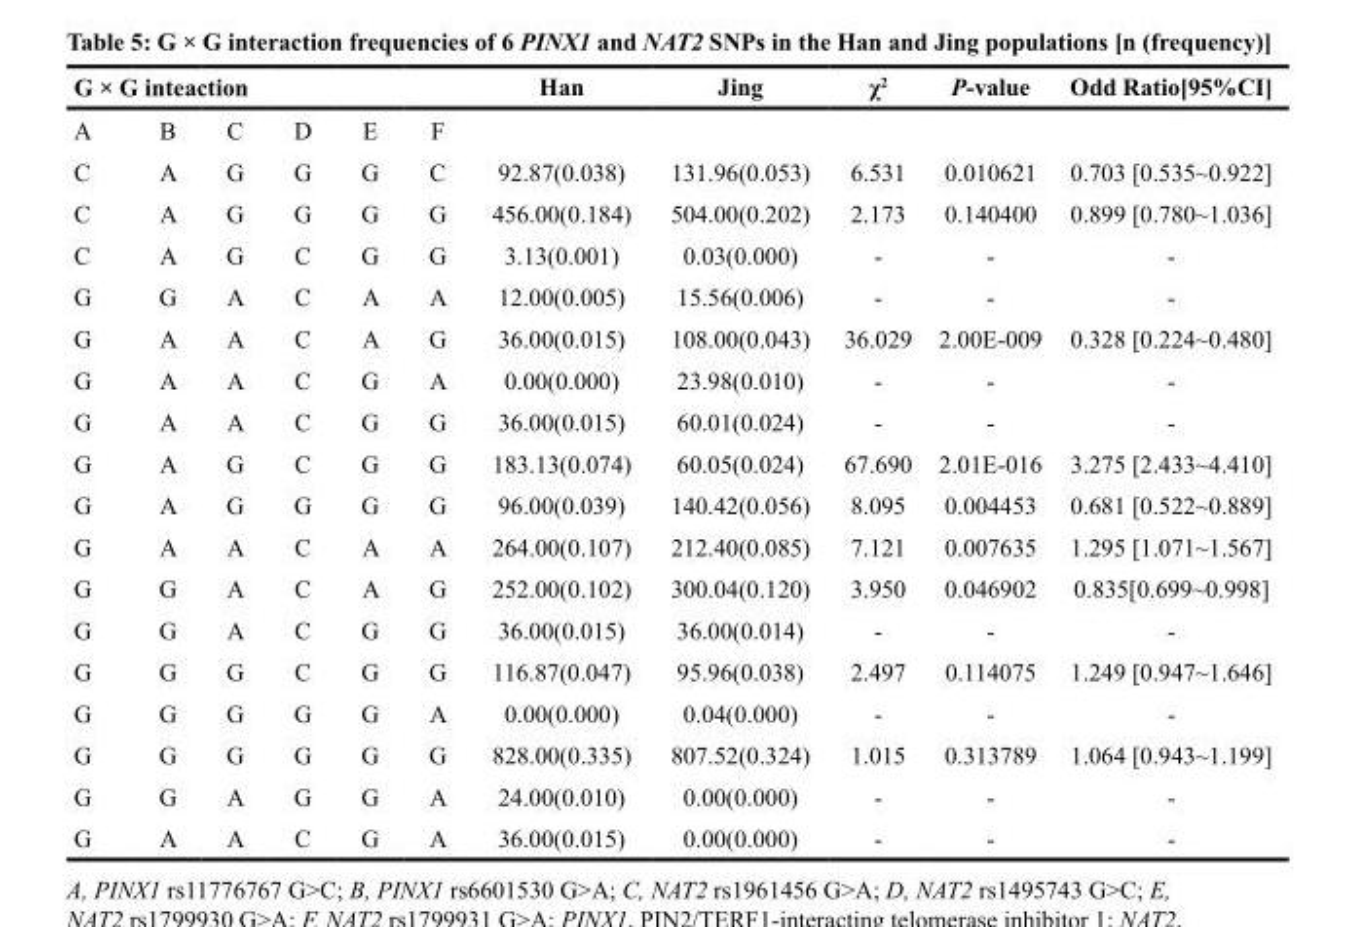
<table><thead><tr><td colspan="6">G × G inteaction</td><td rowspan="2">Han</td><td rowspan="2">Jing</td><td rowspan="2">χ<sup>2</sup></td><td rowspan="2">P-value</td><td rowspan="2">Odd Ratio[95%CI]</td></tr><tr><td>A</td><td>B</td><td>C</td><td>D</td><td>E</td><td>F</td></tr></thead><tbody><tr><td>C</td><td>A</td><td>G</td><td>G</td><td>G</td><td>C</td><td>92.87(0.038)</td><td>131.96(0.053)</td><td>6.531</td><td>0.010621</td><td>0.703 [0.535~0.922]</td></tr><tr><td>C</td><td>A</td><td>G</td><td>G</td><td>G</td><td>G</td><td>456.00(0.184)</td><td>504.00(0.202)</td><td>2.173</td><td>0.140400</td><td>0.899 [0.780~1.036]</td></tr><tr><td>C</td><td>A</td><td>G</td><td>C</td><td>G</td><td>G</td><td>3.13(0.001)</td><td>0.03(0.000)</td><td>-</td><td>-</td><td>-</td></tr><tr><td>G</td><td>G</td><td>A</td><td>C</td><td>A</td><td>A</td><td>12.00(0.005)</td><td>15.56(0.006)</td><td>-</td><td>-</td><td>-</td></tr><tr><td>G</td><td>A</td><td>A</td><td>C</td><td>A</td><td>G</td><td>36.00(0.015)</td><td>108.00(0.043)</td><td>36.029</td><td>2.00E-009</td><td>0.328 [0.224~0.480]</td></tr><tr><td>G</td><td>A</td><td>A</td><td>C</td><td>G</td><td>A</td><td>0.00(0.000)</td><td>23.98(0.010)</td><td>-</td><td>-</td><td>-</td></tr><tr><td>G</td><td>A</td><td>A</td><td>C</td><td>G</td><td>G</td><td>36.00(0.015)</td><td>60.01(0.024)</td><td>-</td><td>-</td><td>-</td></tr><tr><td>G</td><td>A</td><td>G</td><td>C</td><td>G</td><td>G</td><td>183.13(0.074)</td><td>60.05(0.024)</td><td>67.690</td><td>2.01E-016</td><td>3.275 [2.433~4.410]</td></tr><tr><td>G</td><td>A</td><td>G</td><td>G</td><td>G</td><td>G</td><td>96.00(0.039)</td><td>140.42(0.056)</td><td>8.095</td><td>0.004453</td><td>0.681 [0.522~0.889]</td></tr><tr><td>G</td><td>A</td><td>A</td><td>C</td><td>A</td><td>A</td><td>264.00(0.107)</td><td>212.40(0.085)</td><td>7.121</td><td>0.007635</td><td>1.295 [1.071~1.567]</td></tr><tr><td>G</td><td>G</td><td>A</td><td>C</td><td>A</td><td>G</td><td>252.00(0.102)</td><td>300.04(0.120)</td><td>3.950</td><td>0.046902</td><td>0.835[0.699~0.998]</td></tr><tr><td>G</td><td>G</td><td>A</td><td>C</td><td>G</td><td>G</td><td>36.00(0.015)</td><td>36.00(0.014)</td><td>-</td><td>-</td><td>-</td></tr><tr><td>G</td><td>G</td><td>G</td><td>C</td><td>G</td><td>G</td><td>116.87(0.047)</td><td>95.96(0.038)</td><td>2.497</td><td>0.114075</td><td>1.249 [0.947~1.646]</td></tr><tr><td>G</td><td>G</td><td>G</td><td>G</td><td>G</td><td>A</td><td>0.00(0.000)</td><td>0.04(0.000)</td><td>-</td><td>-</td><td>-</td></tr><tr><td>G</td><td>G</td><td>G</td><td>G</td><td>G</td><td>G</td><td>828.00(0.335)</td><td>807.52(0.324)</td><td>1.015</td><td>0.313789</td><td>1.064 [0.943~1.199]</td></tr><tr><td>G</td><td>G</td><td>A</td><td>G</td><td>G</td><td>A</td><td>24.00(0.010)</td><td>0.00(0.000)</td><td>-</td><td>-</td><td>-</td></tr><tr><td>G</td><td>A</td><td>A</td><td>C</td><td>G</td><td>A</td><td>36.00(0.015)</td><td>0.00(0.000)</td><td>-</td><td>-</td><td>-</td></tr></tbody></table>